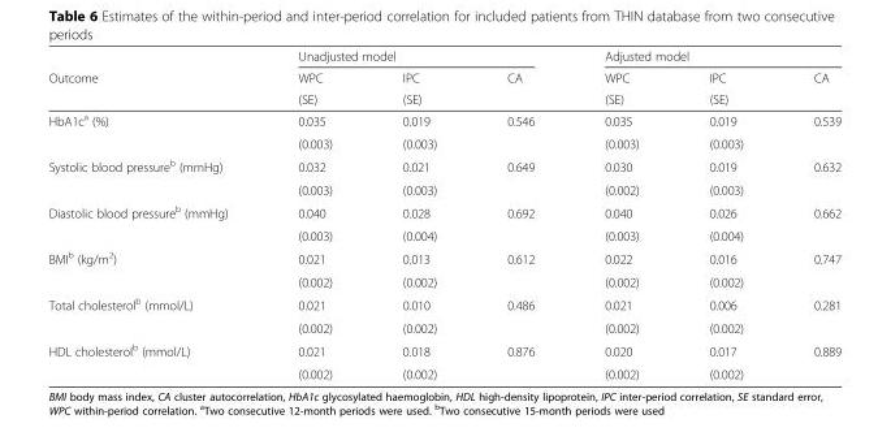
<table><thead><tr><td rowspan="3">Outcome</td><td colspan="3">Unadjusted model</td><td colspan="3">Adjusted model</td></tr><tr><td rowspan="2">WPC (SE)</td><td rowspan="2">IPC (SE)</td><td rowspan="2">CA</td><td rowspan="2">WPC (SE)</td><td rowspan="2">IPC (SE)</td><td rowspan="2">CA</td></tr><tr></tr></thead><tbody><tr><td rowspan="2">HbA1c<sup>a</sup> (%)</td><td>0.035</td><td>0.019</td><td>0.546</td><td>0.035</td><td>0.019</td><td>0.539</td></tr><tr><td>(0.003)</td><td>(0.003)</td><td></td><td>(0.003)</td><td>(0.003)</td><td></td></tr><tr><td rowspan="2">Systolic blood pressure<sup>b</sup> (mmHg)</td><td>0.032</td><td>0.021</td><td>0.649</td><td>0.030</td><td>0.019</td><td>0.632</td></tr><tr><td>(0.003)</td><td>(0.003)</td><td></td><td>(0.002)</td><td>(0.003)</td><td></td></tr><tr><td rowspan="2">Diastolic blood pressure<sup>b</sup> (mmHg)</td><td>0.040</td><td>0.028</td><td>0.692</td><td>0.040</td><td>0.026</td><td>0.662</td></tr><tr><td>(0.003)</td><td>(0.004)</td><td></td><td>(0.003)</td><td>(0.004)</td><td></td></tr><tr><td rowspan="2">BMI<sup>b</sup> (kg/m<sup>2</sup>)</td><td>0.021</td><td>0.013</td><td>0.612</td><td>0.022</td><td>0.016</td><td>0.747</td></tr><tr><td>(0.002)</td><td>(0.002)</td><td></td><td>(0.002)</td><td>(0.002)</td><td></td></tr><tr><td rowspan="2">Total cholesterol<sup>b</sup> (mmol/L)</td><td>0.021</td><td>0.010</td><td>0.486</td><td>0.021</td><td>0.006</td><td>0.281</td></tr><tr><td>(0.002)</td><td>(0.002)</td><td></td><td>(0.002)</td><td>(0.002)</td><td></td></tr><tr><td rowspan="2">HDL cholesterol<sup>b</sup> (mmol/L)</td><td>0.021</td><td>0.018</td><td>0.876</td><td>0.020</td><td>0.017</td><td>0.889</td></tr><tr><td>(0.002)</td><td>(0.002)</td><td></td><td>(0.002)</td><td>(0.002)</td><td></td></tr></tbody></table>